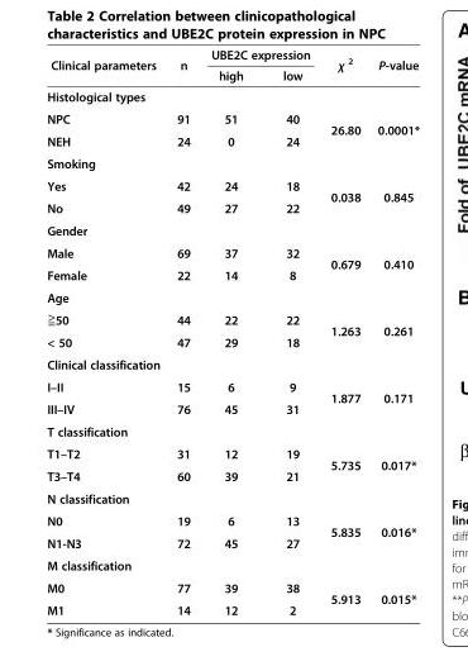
<table><thead><tr><td rowspan="2">Clinical parameters</td><td rowspan="2">n</td><td colspan="2">UBE2C expression</td><td rowspan="2">χ <sup>2</sup></td><td rowspan="2">P-value</td></tr><tr><td>high</td><td>low</td></tr></thead><tbody><tr><td colspan="6">Histological types</td></tr><tr><td>NPC</td><td>91</td><td>51</td><td>40</td><td rowspan="2">26.80</td><td rowspan="2">0.0001*</td></tr><tr><td>NEH</td><td>24</td><td>0</td><td>24</td></tr><tr><td colspan="6">Smoking</td></tr><tr><td>Yes</td><td>42</td><td>24</td><td>18</td><td rowspan="2">0.038</td><td rowspan="2">0.845</td></tr><tr><td>No</td><td>49</td><td>27</td><td>22</td></tr><tr><td colspan="6">Gender</td></tr><tr><td>Male</td><td>69</td><td>37</td><td>32</td><td rowspan="2">0.679</td><td rowspan="2">0.410</td></tr><tr><td>Female</td><td>22</td><td>14</td><td>8</td></tr><tr><td colspan="6">Age</td></tr><tr><td>≧50</td><td>44</td><td>22</td><td>22</td><td rowspan="2">1.263</td><td rowspan="2">0.261</td></tr><tr><td>&lt; 50</td><td>47</td><td>29</td><td>18</td></tr><tr><td colspan="6">Clinical classification</td></tr><tr><td>I–II</td><td>15</td><td>6</td><td>9</td><td rowspan="2">1.877</td><td rowspan="2">0.171</td></tr><tr><td>III–IV</td><td>76</td><td>45</td><td>31</td></tr><tr><td colspan="6">T classification</td></tr><tr><td>T1–T2</td><td>31</td><td>12</td><td>19</td><td rowspan="2">5.735</td><td rowspan="2">0.017*</td></tr><tr><td>T3–T4</td><td>60</td><td>39</td><td>21</td></tr><tr><td colspan="6">N classification</td></tr><tr><td>N0</td><td>19</td><td>6</td><td>13</td><td rowspan="2">5.835</td><td rowspan="2">0.016*</td></tr><tr><td>N1-N3</td><td>72</td><td>45</td><td>27</td></tr><tr><td colspan="6">M classification</td></tr><tr><td>M0</td><td>77</td><td>39</td><td>38</td><td rowspan="2">5.913</td><td rowspan="2">0.015*</td></tr><tr><td>M1</td><td>14</td><td>12</td><td>2</td></tr></tbody></table>